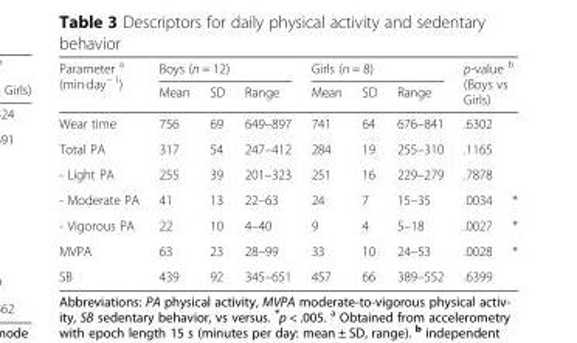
<table><thead><tr><td rowspan="3">Parameter <sup>a</sup> (min∙day<sup>− 1</sup>) Wear time</td><td colspan="3">Boys (n = 12)</td><td colspan="3">Girls (n = 8)</td><td rowspan="2" colspan="2">p-value <sup>b</sup> (Boys vs Girls)</td></tr><tr><td rowspan="2">Mean 756</td><td rowspan="2">SD 69</td><td rowspan="2">Range 649–897</td><td rowspan="2">Mean 741</td><td rowspan="2">SD 64</td><td rowspan="2">Range 676–841</td></tr><tr><td>.6302</td><td></td></tr></thead><tbody><tr><td>Total PA</td><td>317</td><td>54</td><td>247–412</td><td>284</td><td>19</td><td>255–310</td><td>.1165</td><td></td></tr><tr><td>- Light PA</td><td>255</td><td>39</td><td>201–323</td><td>251</td><td>16</td><td>229–279</td><td>.7878</td><td></td></tr><tr><td>- Moderate PA</td><td>41</td><td>13</td><td>22–63</td><td>24</td><td>7</td><td>15–35</td><td>.0034</td><td>*</td></tr><tr><td>- Vigorous PA</td><td>22</td><td>10</td><td>4–40</td><td>9</td><td>4</td><td>5–18</td><td>.0027</td><td>*</td></tr><tr><td>MVPA</td><td>63</td><td>23</td><td>28–99</td><td>33</td><td>10</td><td>24–53</td><td>.0028</td><td>*</td></tr><tr><td>SB</td><td>439</td><td>92</td><td>345–651</td><td>457</td><td>66</td><td>389–552</td><td>.6399</td><td></td></tr></tbody></table>